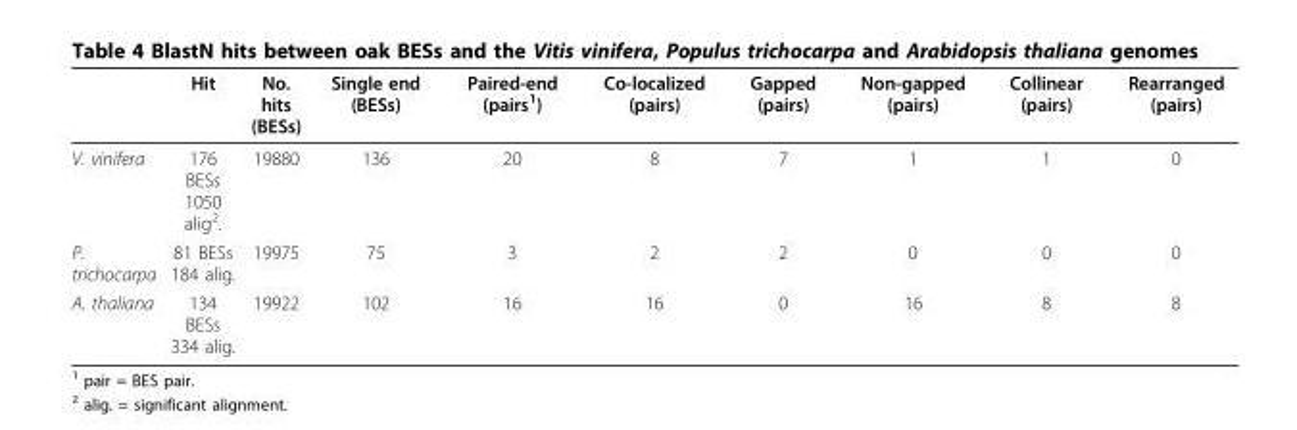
<table><thead><tr><td></td><td>Hit</td><td>No. hits (BESs)</td><td>Single end (BESs)</td><td>Paired-end (pairs<sup>1</sup>)</td><td>Co-localized (pairs)</td><td>Gapped (pairs)</td><td>Non-gapped (pairs)</td><td>Collinear (pairs)</td><td>Rearranged (pairs)</td></tr></thead><tbody><tr><td>V. vinifera</td><td>176 BESs 1050 alig<sup>2</sup>.</td><td>19880</td><td>136</td><td>20</td><td>8</td><td>7</td><td>1</td><td>1</td><td>0</td></tr><tr><td>P. trichocarpa</td><td>81 BESs 184 alig.</td><td>19975</td><td>75</td><td>3</td><td>2</td><td>2</td><td>0</td><td>0</td><td>0</td></tr><tr><td>A. thaliana</td><td>134 BESs 334 alig.</td><td>19922</td><td>102</td><td>16</td><td>16</td><td>0</td><td>16</td><td>8</td><td>8</td></tr></tbody></table>